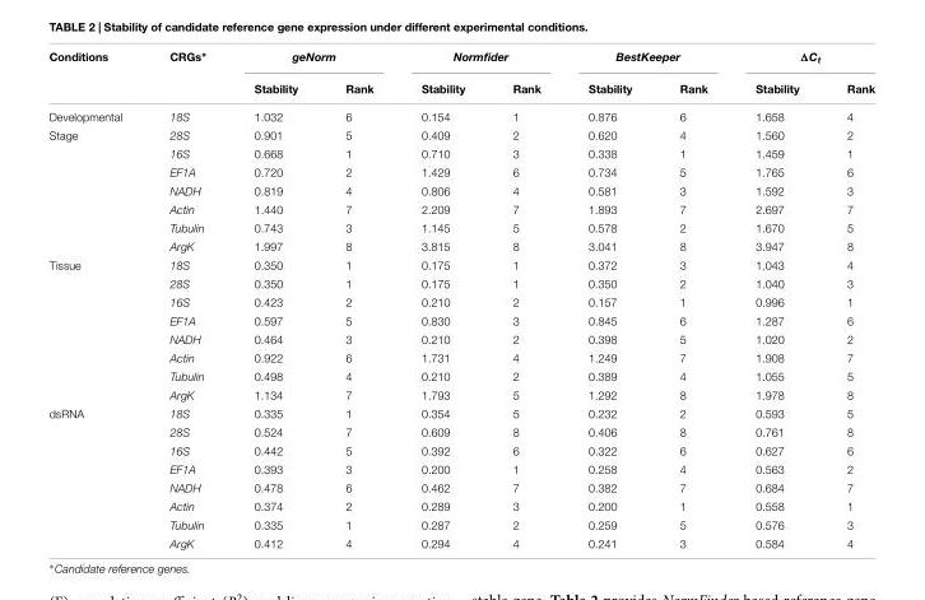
<table><thead><tr><td rowspan="2">Conditions</td><td rowspan="2">CRGs∗</td><td colspan="2">geNorm</td><td colspan="2">Normfider</td><td colspan="2">BestKeeper</td><td colspan="2">ΔC<sub>t</sub></td></tr><tr><td>Stability</td><td>Rank</td><td>Stability</td><td>Rank</td><td>Stability</td><td>Rank</td><td>Stability</td><td>Rank</td></tr></thead><tbody><tr><td>Developmental</td><td>18S</td><td>1.032</td><td>6</td><td>0.154</td><td>1</td><td>0.876</td><td>6</td><td>1.658</td><td>4</td></tr><tr><td rowspan="7">Stage</td><td>28S</td><td>0.901</td><td>5</td><td>0.409</td><td>2</td><td>0.620</td><td>4</td><td>1.560</td><td>2</td></tr><tr><td>16S</td><td>0.668</td><td>1</td><td>0.710</td><td>3</td><td>0.338</td><td>1</td><td>1.459</td><td>1</td></tr><tr><td>EF1A</td><td>0.720</td><td>2</td><td>1.429</td><td>6</td><td>0.734</td><td>5</td><td>1.765</td><td>6</td></tr><tr><td>NADH</td><td>0.819</td><td>4</td><td>0.806</td><td>4</td><td>0.581</td><td>3</td><td>1.592</td><td>3</td></tr><tr><td>Actin</td><td>1.440</td><td>7</td><td>2.209</td><td>7</td><td>1.893</td><td>7</td><td>2.697</td><td>7</td></tr><tr><td>Tubulin</td><td>0.743</td><td>3</td><td>1.145</td><td>5</td><td>0.578</td><td>2</td><td>1.670</td><td>5</td></tr><tr><td>ArgK</td><td>1.997</td><td>8</td><td>3.815</td><td>8</td><td>3.041</td><td>8</td><td>3.947</td><td>8</td></tr><tr><td rowspan="8">Tissue</td><td>18S</td><td>0.350</td><td>1</td><td>0.175</td><td>1</td><td>0.372</td><td>3</td><td>1.043</td><td>4</td></tr><tr><td>28S</td><td>0.350</td><td>1</td><td>0.175</td><td>1</td><td>0.350</td><td>2</td><td>1.040</td><td>3</td></tr><tr><td>16S</td><td>0.423</td><td>2</td><td>0.210</td><td>2</td><td>0.157</td><td>1</td><td>0.996</td><td>1</td></tr><tr><td>EF1A</td><td>0.597</td><td>5</td><td>0.830</td><td>3</td><td>0.845</td><td>6</td><td>1.287</td><td>6</td></tr><tr><td>NADH</td><td>0.464</td><td>3</td><td>0.210</td><td>2</td><td>0.398</td><td>5</td><td>1.020</td><td>2</td></tr><tr><td>Actin</td><td>0.922</td><td>6</td><td>1.731</td><td>4</td><td>1.249</td><td>7</td><td>1.908</td><td>7</td></tr><tr><td>Tubulin</td><td>0.498</td><td>4</td><td>0.210</td><td>2</td><td>0.389</td><td>4</td><td>1.055</td><td>5</td></tr><tr><td>ArgK</td><td>1.134</td><td>7</td><td>1.793</td><td>5</td><td>1.292</td><td>8</td><td>1.978</td><td>8</td></tr><tr><td rowspan="8">dsRNA</td><td>18S</td><td>0.335</td><td>1</td><td>0.354</td><td>5</td><td>0.232</td><td>2</td><td>0.593</td><td>5</td></tr><tr><td>28S</td><td>0.524</td><td>7</td><td>0.609</td><td>8</td><td>0.406</td><td>8</td><td>0.761</td><td>8</td></tr><tr><td>16S</td><td>0.442</td><td>5</td><td>0.392</td><td>6</td><td>0.322</td><td>6</td><td>0.627</td><td>6</td></tr><tr><td>EF1A</td><td>0.393</td><td>3</td><td>0.200</td><td>1</td><td>0.258</td><td>4</td><td>0.563</td><td>2</td></tr><tr><td>NADH</td><td>0.478</td><td>6</td><td>0.462</td><td>7</td><td>0.382</td><td>7</td><td>0.684</td><td>7</td></tr><tr><td>Actin</td><td>0.374</td><td>2</td><td>0.289</td><td>3</td><td>0.200</td><td>1</td><td>0.558</td><td>1</td></tr><tr><td>Tubulin</td><td>0.335</td><td>1</td><td>0.287</td><td>2</td><td>0.259</td><td>5</td><td>0.576</td><td>3</td></tr><tr><td>ArgK</td><td>0.412</td><td>4</td><td>0.294</td><td>4</td><td>0.241</td><td>3</td><td>0.584</td><td>4</td></tr></tbody></table>